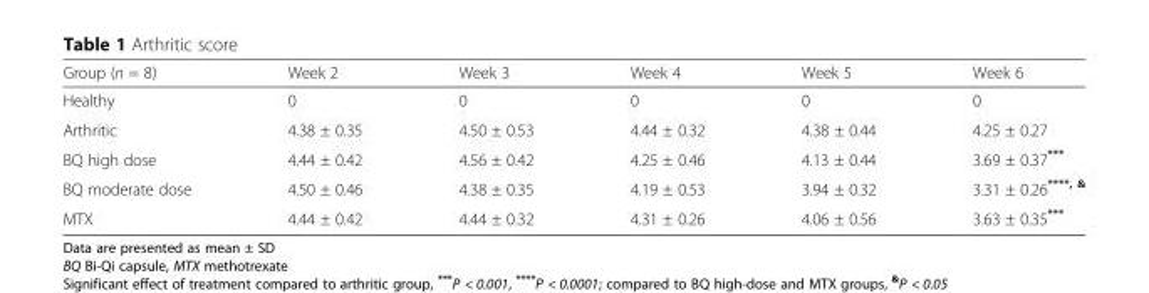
<table><thead><tr><td>Group (n = 8)</td><td>Week 2</td><td>Week 3</td><td>Week 4</td><td>Week 5</td><td>Week 6</td></tr></thead><tbody><tr><td>Healthy</td><td>0</td><td>0</td><td>0</td><td>0</td><td>0</td></tr><tr><td>Arthritic</td><td>4.38 ± 0.35</td><td>4.50 ± 0.53</td><td>4.44 ± 0.32</td><td>4.38 ± 0.44</td><td>4.25 ± 0.27</td></tr><tr><td>BQ high dose</td><td>4.44 ± 0.42</td><td>4.56 ± 0.42</td><td>4.25 ± 0.46</td><td>4.13 ± 0.44</td><td>3.69 ± 0.37***</td></tr><tr><td>BQ moderate dose</td><td>4.50 ± 0.46</td><td>4.38 ± 0.35</td><td>4.19 ± 0.53</td><td>3.94 ± 0.32</td><td>3.31 ± 0.26<sup>****, &amp;</sup></td></tr><tr><td>MTX</td><td>4.44 ± 0.42</td><td>4.44 ± 0.32</td><td>4.31 ± 0.26</td><td>4.06 ± 0.56</td><td>3.63 ± 0.35***</td></tr></tbody></table>